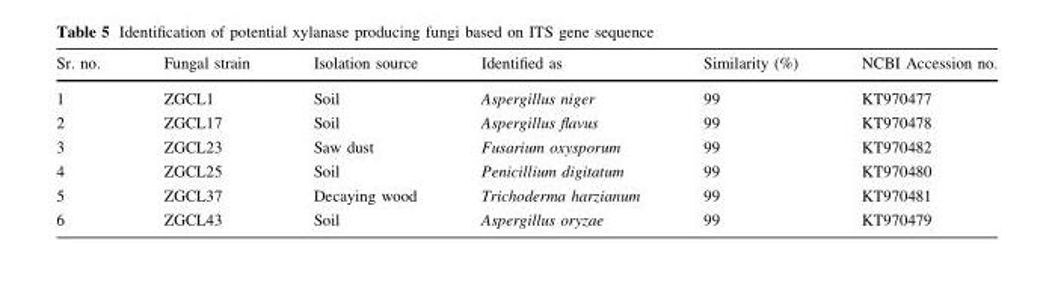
<table><thead><tr><td>Sr. no.</td><td>Fungal strain</td><td>Isolation source</td><td>Identified as</td><td>Similarity (%)</td><td>NCBI Accession no.</td></tr></thead><tbody><tr><td>1</td><td>ZGCL1</td><td>Soil</td><td>Aspergillus niger</td><td>99</td><td>KT970477</td></tr><tr><td>2</td><td>ZGCL17</td><td>Soil</td><td>Aspergillus flavus</td><td>99</td><td>KT970478</td></tr><tr><td>3</td><td>ZGCL23</td><td>Saw dust</td><td>Fusarium oxysporum</td><td>99</td><td>KT970482</td></tr><tr><td>4</td><td>ZGCL25</td><td>Soil</td><td>Penicillium digitatum</td><td>99</td><td>KT970480</td></tr><tr><td>5</td><td>ZGCL37</td><td>Decaying wood</td><td>Trichoderma harzianum</td><td>99</td><td>KT970481</td></tr><tr><td>6</td><td>ZGCL43</td><td>Soil</td><td>Aspergillus oryzae</td><td>99</td><td>KT970479</td></tr></tbody></table>